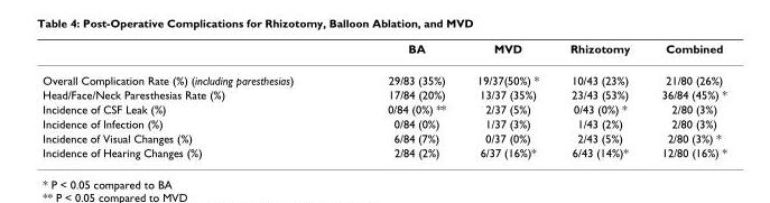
<table><thead><tr><td></td><td>BA</td><td>MVD</td><td>Rhizotomy</td><td>Combined</td></tr></thead><tbody><tr><td>Overall Complication Rate (%) (including paresthesias)</td><td>29/83 (35%)</td><td>19/37(50%) *</td><td>10/43 (23%)</td><td>21/80 (26%)</td></tr><tr><td>Head/Face/Neck Paresthesias Rate (%)</td><td>17/84 (20%)</td><td>13/37 (35%)</td><td>23/43 (53%)</td><td>36/84 (45%) *</td></tr><tr><td>Incidence of CSF Leak (%)</td><td>0/84 (0%) **</td><td>2/37 (5%)</td><td>0/43 (0%) *</td><td>2/80 (3%)</td></tr><tr><td>Incidence of Infection (%)</td><td>0/84 (0%)</td><td>1/37 (3%)</td><td>1/43 (2%)</td><td>2/80 (3%)</td></tr><tr><td>Incidence of Visual Changes (%)</td><td>6/84 (7%)</td><td>0/37 (0%)</td><td>2/43 (5%)</td><td>2/80 (3%) *</td></tr><tr><td>Incidence of Hearing Changes (%)</td><td>2/84 (2%)</td><td>6/37 (16%)*</td><td>6/43 (14%)*</td><td>12/80 (16%) *</td></tr></tbody></table>